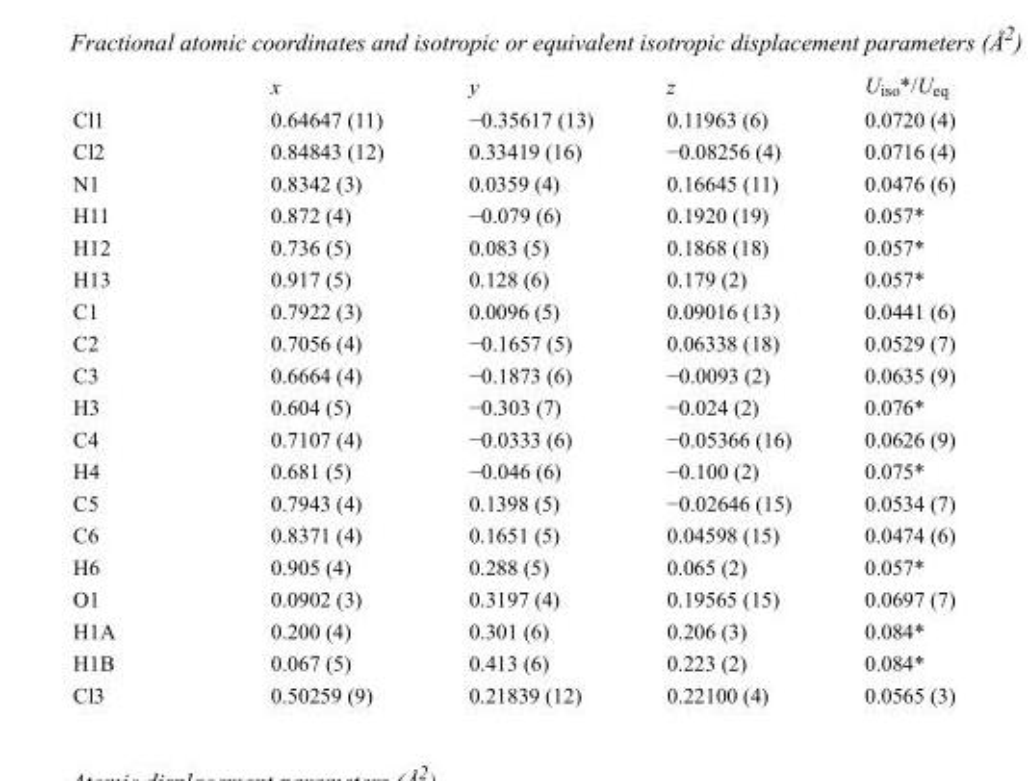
<table><thead><tr><td></td><td>x</td><td>y</td><td>z</td><td>U<sub>iso</sub>*/U<sub>eq</sub></td></tr></thead><tbody><tr><td>Cl1</td><td>0.64647 (11)</td><td>−0.35617 (13)</td><td>0.11963 (6)</td><td>0.0720 (4)</td></tr><tr><td>Cl2</td><td>0.84843 (12)</td><td>0.33419 (16)</td><td>−0.08256 (4)</td><td>0.0716 (4)</td></tr><tr><td>N1</td><td>0.8342 (3)</td><td>0.0359 (4)</td><td>0.16645 (11)</td><td>0.0476 (6)</td></tr><tr><td>H11</td><td>0.872 (4)</td><td>−0.079 (6)</td><td>0.1920 (19)</td><td>0.057*</td></tr><tr><td>H12</td><td>0.736 (5)</td><td>0.083 (5)</td><td>0.1868 (18)</td><td>0.057*</td></tr><tr><td>H13</td><td>0.917 (5)</td><td>0.128 (6)</td><td>0.179 (2)</td><td>0.057*</td></tr><tr><td>C1</td><td>0.7922 (3)</td><td>0.0096 (5)</td><td>0.09016 (13)</td><td>0.0441 (6)</td></tr><tr><td>C2</td><td>0.7056 (4)</td><td>−0.1657 (5)</td><td>0.06338 (18)</td><td>0.0529 (7)</td></tr><tr><td>C3</td><td>0.6664 (4)</td><td>−0.1873 (6)</td><td>−0.0093 (2)</td><td>0.0635 (9)</td></tr><tr><td>H3</td><td>0.604 (5)</td><td>−0.303 (7)</td><td>−0.024 (2)</td><td>0.076*</td></tr><tr><td>C4</td><td>0.7107 (4)</td><td>−0.0333 (6)</td><td>−0.05366 (16)</td><td>0.0626 (9)</td></tr><tr><td>H4</td><td>0.681 (5)</td><td>−0.046 (6)</td><td>−0.100 (2)</td><td>0.075*</td></tr><tr><td>C5</td><td>0.7943 (4)</td><td>0.1398 (5)</td><td>−0.02646 (15)</td><td>0.0534 (7)</td></tr><tr><td>C6</td><td>0.8371 (4)</td><td>0.1651 (5)</td><td>0.04598 (15)</td><td>0.0474 (6)</td></tr><tr><td>H6</td><td>0.905 (4)</td><td>0.288 (5)</td><td>0.065 (2)</td><td>0.057*</td></tr><tr><td>O1</td><td>0.0902 (3)</td><td>0.3197 (4)</td><td>0.19565 (15)</td><td>0.0697 (7)</td></tr><tr><td>H1A</td><td>0.200 (4)</td><td>0.301 (6)</td><td>0.206 (3)</td><td>0.084*</td></tr><tr><td>H1B</td><td>0.067 (5)</td><td>0.413 (6)</td><td>0.223 (2)</td><td>0.084*</td></tr><tr><td>Cl3</td><td>0.50259 (9)</td><td>0.21839 (12)</td><td>0.22100 (4)</td><td>0.0565 (3)</td></tr></tbody></table>